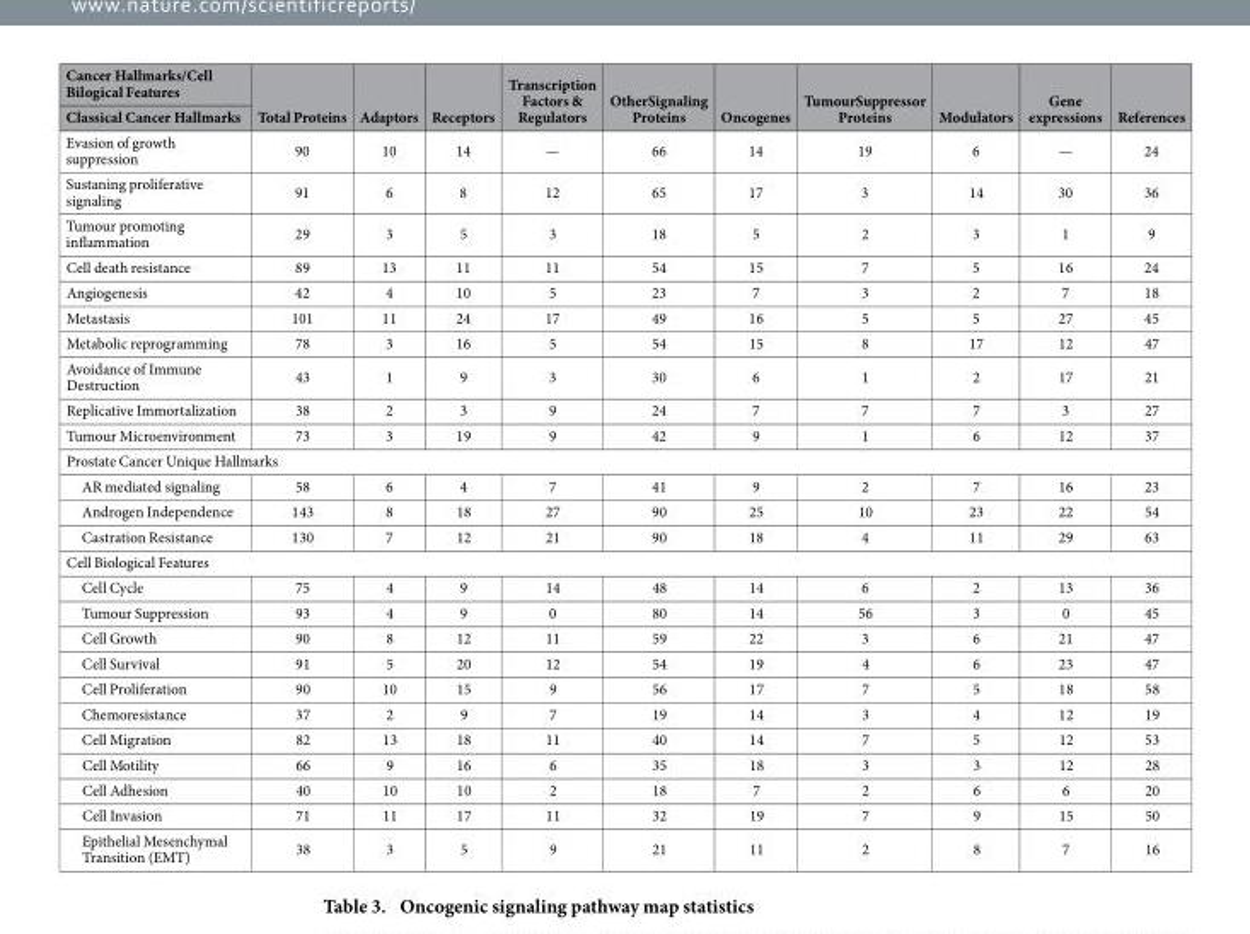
<table><thead><tr><td rowspan="2">Cancer Hallmarks/Cell Bilogical Features Classical Cancer Hallmarks</td><td rowspan="2">Total Proteins</td><td rowspan="2">Adaptors</td><td rowspan="2">Receptors</td><td rowspan="2">Transcription Factors &amp; Regulators</td><td rowspan="2">OtherSignaling Proteins</td><td rowspan="2">Oncogenes</td><td rowspan="2">TumourSuppressor Proteins</td><td rowspan="2">Modulators</td><td rowspan="2">Gene expressions</td><td rowspan="2">References</td></tr><tr></tr></thead><tbody><tr><td>Evasion of growth suppression</td><td>90</td><td>10</td><td>14</td><td>—</td><td>66</td><td>14</td><td>19</td><td>6</td><td>—</td><td>24</td></tr><tr><td>Sustaning proliferative signaling</td><td>91</td><td>6</td><td>8</td><td>12</td><td>65</td><td>17</td><td>3</td><td>14</td><td>30</td><td>36</td></tr><tr><td>Tumour promoting inflammation</td><td>29</td><td>3</td><td>5</td><td>3</td><td>18</td><td>5</td><td>2</td><td>3</td><td>1</td><td>9</td></tr><tr><td>Cell death resistance</td><td>89</td><td>13</td><td>11</td><td>11</td><td>54</td><td>15</td><td>7</td><td>5</td><td>16</td><td>24</td></tr><tr><td>Angiogenesis</td><td>42</td><td>4</td><td>10</td><td>5</td><td>23</td><td>7</td><td>3</td><td>2</td><td>7</td><td>18</td></tr><tr><td>Metastasis</td><td>101</td><td>11</td><td>24</td><td>17</td><td>49</td><td>16</td><td>5</td><td>5</td><td>27</td><td>45</td></tr><tr><td>Metabolic reprogramming</td><td>78</td><td>3</td><td>16</td><td>5</td><td>54</td><td>15</td><td>8</td><td>17</td><td>12</td><td>47</td></tr><tr><td>Avoidance of Immune Destruction</td><td>43</td><td>1</td><td>9</td><td>3</td><td>30</td><td>6</td><td>1</td><td>2</td><td>17</td><td>21</td></tr><tr><td>Replicative Immortalization</td><td>38</td><td>2</td><td>3</td><td>9</td><td>24</td><td>7</td><td>7</td><td>7</td><td>3</td><td>27</td></tr><tr><td>Tumour Microenvironment</td><td>73</td><td>3</td><td>19</td><td>9</td><td>42</td><td>9</td><td>1</td><td>6</td><td>12</td><td>37</td></tr><tr><td colspan="11">Prostate Cancer Unique Hallmarks</td></tr><tr><td>AR mediated signaling</td><td>58</td><td>6</td><td>4</td><td>7</td><td>41</td><td>9</td><td>2</td><td>7</td><td>16</td><td>23</td></tr><tr><td>Androgen Independence</td><td>143</td><td>8</td><td>18</td><td>27</td><td>90</td><td>25</td><td>10</td><td>23</td><td>22</td><td>54</td></tr><tr><td>Castration Resistance</td><td>130</td><td>7</td><td>12</td><td>21</td><td>90</td><td>18</td><td>4</td><td>11</td><td>29</td><td>63</td></tr><tr><td colspan="11">Cell Biological Features</td></tr><tr><td>Cell Cycle</td><td>75</td><td>4</td><td>9</td><td>14</td><td>48</td><td>14</td><td>6</td><td>2</td><td>13</td><td>36</td></tr><tr><td>Tumour Suppression</td><td>93</td><td>4</td><td>9</td><td>0</td><td>80</td><td>14</td><td>56</td><td>3</td><td>0</td><td>45</td></tr><tr><td>Cell Growth</td><td>90</td><td>8</td><td>12</td><td>11</td><td>59</td><td>22</td><td>3</td><td>6</td><td>21</td><td>47</td></tr><tr><td>Cell Survival</td><td>91</td><td>5</td><td>20</td><td>12</td><td>54</td><td>19</td><td>4</td><td>6</td><td>23</td><td>47</td></tr><tr><td>Cell Proliferation</td><td>90</td><td>10</td><td>15</td><td>9</td><td>56</td><td>17</td><td>7</td><td>5</td><td>18</td><td>58</td></tr><tr><td>Chemoresistance</td><td>37</td><td>2</td><td>9</td><td>7</td><td>19</td><td>14</td><td>3</td><td>4</td><td>12</td><td>19</td></tr><tr><td>Cell Migration</td><td>82</td><td>13</td><td>18</td><td>11</td><td>40</td><td>14</td><td>7</td><td>5</td><td>12</td><td>53</td></tr><tr><td>Cell Motility</td><td>66</td><td>9</td><td>16</td><td>6</td><td>35</td><td>18</td><td>3</td><td>3</td><td>12</td><td>28</td></tr><tr><td>Cell Adhesion</td><td>40</td><td>10</td><td>10</td><td>2</td><td>18</td><td>7</td><td>2</td><td>6</td><td>6</td><td>20</td></tr><tr><td>Cell Invasion</td><td>71</td><td>11</td><td>17</td><td>11</td><td>32</td><td>19</td><td>7</td><td>9</td><td>15</td><td>50</td></tr><tr><td>Epithelial Mesenchymal Transition (EMT)</td><td>38</td><td>3</td><td>5</td><td>9</td><td>21</td><td>11</td><td>2</td><td>8</td><td>7</td><td>16</td></tr></tbody></table>